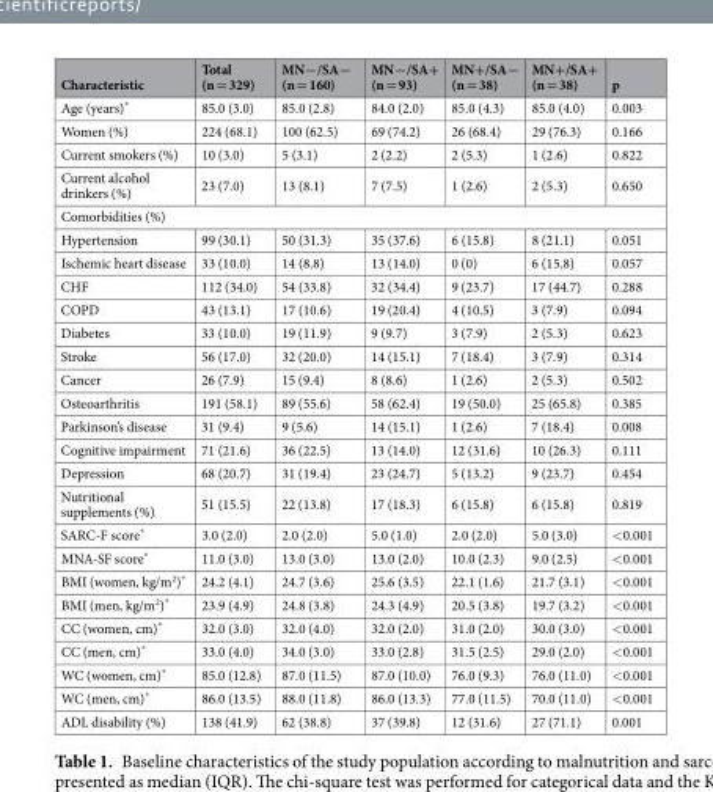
<table><thead><tr><td>Characteristic</td><td>Total (n = 329)</td><td>MN−/SA− (n = 160)</td><td>MN−/SA+ (n = 93)</td><td>MN+/SA− (n = 38)</td><td>MN+/SA+ (n = 38)</td><td>p</td></tr></thead><tbody><tr><td>Age (years)*</td><td>85.0 (3.0)</td><td>85.0 (2.8)</td><td>84.0 (2.0)</td><td>85.0 (4.3)</td><td>85.0 (4.0)</td><td>0.003</td></tr><tr><td>Women (%)</td><td>224 (68.1)</td><td>100 (62.5)</td><td>69 (74.2)</td><td>26 (68.4)</td><td>29 (76.3)</td><td>0.166</td></tr><tr><td>Current smokers (%)</td><td>10 (3.0)</td><td>5 (3.1)</td><td>2 (2.2)</td><td>2 (5.3)</td><td>1 (2.6)</td><td>0.822</td></tr><tr><td>Current alcohol drinkers (%)</td><td>23 (7.0)</td><td>13 (8.1)</td><td>7 (7.5)</td><td>1 (2.6)</td><td>2 (5.3)</td><td>0.650</td></tr><tr><td colspan="7">Comorbidities (%)</td></tr><tr><td>Hypertension</td><td>99 (30.1)</td><td>50 (31.3)</td><td>35 (37.6)</td><td>6 (15.8)</td><td>8 (21.1)</td><td>0.051</td></tr><tr><td>Ischemic heart disease</td><td>33 (10.0)</td><td>14 (8.8)</td><td>13 (14.0)</td><td>0 (0)</td><td>6 (15.8)</td><td>0.057</td></tr><tr><td>CHF</td><td>112 (34.0)</td><td>54 (33.8)</td><td>32 (34.4)</td><td>9 (23.7)</td><td>17 (44.7)</td><td>0.288</td></tr><tr><td>COPD</td><td>43 (13.1)</td><td>17 (10.6)</td><td>19 (20.4)</td><td>4 (10.5)</td><td>3 (7.9)</td><td>0.094</td></tr><tr><td>Diabetes</td><td>33 (10.0)</td><td>19 (11.9)</td><td>9 (9.7)</td><td>3 (7.9)</td><td>2 (5.3)</td><td>0.623</td></tr><tr><td>Stroke</td><td>56 (17.0)</td><td>32 (20.0)</td><td>14 (15.1)</td><td>7 (18.4)</td><td>3 (7.9)</td><td>0.314</td></tr><tr><td>Cancer</td><td>26 (7.9)</td><td>15 (9.4)</td><td>8 (8.6)</td><td>1 (2.6)</td><td>2 (5.3)</td><td>0.502</td></tr><tr><td>Osteoarthritis</td><td>191 (58.1)</td><td>89 (55.6)</td><td>58 (62.4)</td><td>19 (50.0)</td><td>25 (65.8)</td><td>0.385</td></tr><tr><td>Parkinson’s disease</td><td>31 (9.4)</td><td>9 (5.6)</td><td>14 (15.1)</td><td>1 (2.6)</td><td>7 (18.4)</td><td>0.008</td></tr><tr><td>Cognitive impairment</td><td>71 (21.6)</td><td>36 (22.5)</td><td>13 (14.0)</td><td>12 (31.6)</td><td>10 (26.3)</td><td>0.111</td></tr><tr><td>Depression</td><td>68 (20.7)</td><td>31 (19.4)</td><td>23 (24.7)</td><td>5 (13.2)</td><td>9 (23.7)</td><td>0.454</td></tr><tr><td>Nutritional supplements (%)</td><td>51 (15.5)</td><td>22 (13.8)</td><td>17 (18.3)</td><td>6 (15.8)</td><td>6 (15.8)</td><td>0.819</td></tr><tr><td>SARC-F score*</td><td>3.0 (2.0)</td><td>2.0 (2.0)</td><td>5.0 (1.0)</td><td>2.0 (2.0)</td><td>5.0 (3.0)</td><td>&lt;0.001</td></tr><tr><td>MNA-SF score*</td><td>11.0 (3.0)</td><td>13.0 (3.0)</td><td>13.0 (2.0)</td><td>10.0 (2.3)</td><td>9.0 (2.5)</td><td>&lt;0.001</td></tr><tr><td>BMI (women, kg/m<sup>2</sup>)*</td><td>24.2 (4.1)</td><td>24.7 (3.6)</td><td>25.6 (3.5)</td><td>22.1 (1.6)</td><td>21.7 (3.1)</td><td>&lt;0.001</td></tr><tr><td>BMI (men, kg/m<sup>2</sup>)*</td><td>23.9 (4.9)</td><td>24.8 (3.8)</td><td>24.3 (4.9)</td><td>20.5 (3.8)</td><td>19.7 (3.2)</td><td>&lt;0.001</td></tr><tr><td>CC (women, cm)*</td><td>32.0 (3.0)</td><td>32.0 (4.0)</td><td>32.0 (2.0)</td><td>31.0 (2.0)</td><td>30.0 (3.0)</td><td>&lt;0.001</td></tr><tr><td>CC (men, cm)*</td><td>33.0 (4.0)</td><td>34.0 (3.0)</td><td>33.0 (2.8)</td><td>31.5 (2.5)</td><td>29.0 (2.0)</td><td>&lt;0.001</td></tr><tr><td>WC (women, cm)*</td><td>85.0 (12.8)</td><td>87.0 (11.5)</td><td>87.0 (10.0)</td><td>76.0 (9.3)</td><td>76.0 (11.0)</td><td>&lt;0.001</td></tr><tr><td>WC (men, cm)*</td><td>86.0 (13.5)</td><td>88.0 (11.8)</td><td>86.0 (13.3)</td><td>77.0 (11.5)</td><td>70.0 (11.0)</td><td>&lt;0.001</td></tr><tr><td>ADL disability (%)</td><td>138 (41.9)</td><td>62 (38.8)</td><td>37 (39.8)</td><td>12 (31.6)</td><td>27 (71.1)</td><td>0.001</td></tr></tbody></table>